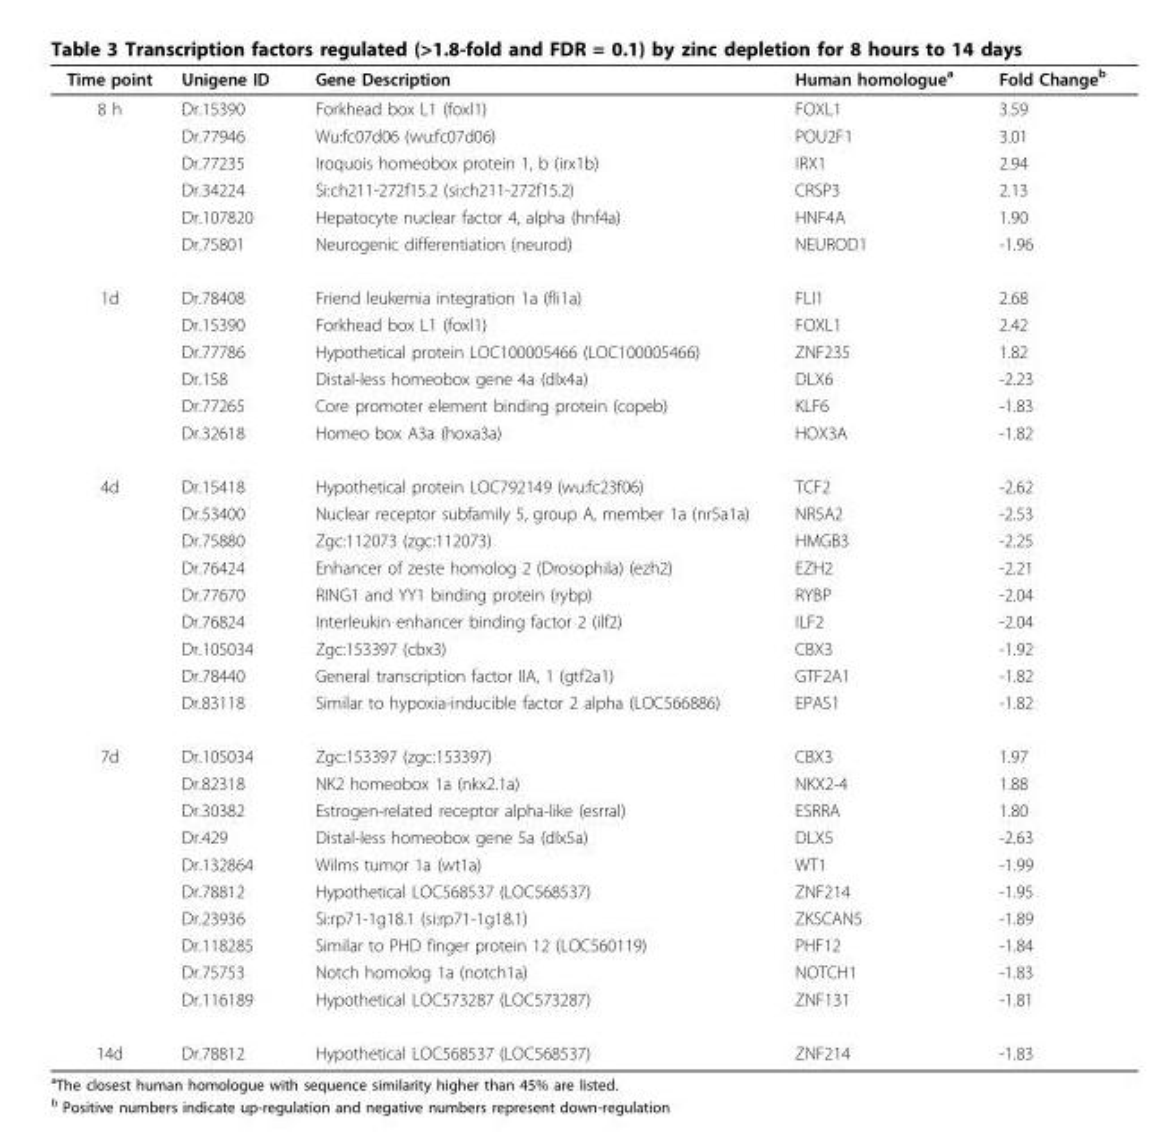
<table><thead><tr><td>Time point</td><td>Unigene ID</td><td>Gene Description</td><td>Human homologue<sup>a</sup></td><td>Fold Change<sup>b</sup></td></tr></thead><tbody><tr><td rowspan="6">8 h</td><td>Dr.15390</td><td>Forkhead box L1 (foxl1)</td><td>FOXL1</td><td>3.59</td></tr><tr><td>Dr.77946</td><td>Wu:fc07d06 (wu:fc07d06)</td><td>POU2F1</td><td>3.01</td></tr><tr><td>Dr.77235</td><td>Iroquois homeobox protein 1, b (irx1b)</td><td>IRX1</td><td>2.94</td></tr><tr><td>Dr.34224</td><td>Si:ch211-272f15.2 (si:ch211-272f15.2)</td><td>CRSP3</td><td>2.13</td></tr><tr><td>Dr.107820</td><td>Hepatocyte nuclear factor 4, alpha (hnf4a)</td><td>HNF4A</td><td>1.90</td></tr><tr><td>Dr.75801</td><td>Neurogenic differentiation (neurod)</td><td>NEUROD1</td><td>-1.96</td></tr><tr><td rowspan="6">1d</td><td>Dr.78408</td><td>Friend leukemia integration 1a (fli1a)</td><td>FLI1</td><td>2.68</td></tr><tr><td>Dr.15390</td><td>Forkhead box L1 (foxl1)</td><td>FOXL1</td><td>2.42</td></tr><tr><td>Dr.77786</td><td>Hypothetical protein LOC100005466 (LOC100005466)</td><td>ZNF235</td><td>1.82</td></tr><tr><td>Dr.158</td><td>Distal-less homeobox gene 4a (dlx4a)</td><td>DLX6</td><td>-2.23</td></tr><tr><td>Dr.77265</td><td>Core promoter element binding protein (copeb)</td><td>KLF6</td><td>-1.83</td></tr><tr><td>Dr.32618</td><td>Homeo box A3a (hoxa3a)</td><td>HOX3A</td><td>-1.82</td></tr><tr><td rowspan="9">4d</td><td>Dr.15418</td><td>Hypothetical protein LOC792149 (wu:fc23f06)</td><td>TCF2</td><td>-2.62</td></tr><tr><td>Dr.53400</td><td>Nuclear receptor subfamily 5, group A, member 1a (nr5a1a)</td><td>NR5A2</td><td>-2.53</td></tr><tr><td>Dr.75880</td><td>Zgc:112073 (zgc:112073)</td><td>HMGB3</td><td>-2.25</td></tr><tr><td>Dr.76424</td><td>Enhancer of zeste homolog 2 (Drosophila) (ezh2)</td><td>EZH2</td><td>-2.21</td></tr><tr><td>Dr.77670</td><td>RING1 and YY1 binding protein (rybp)</td><td>RYBP</td><td>-2.04</td></tr><tr><td>Dr.76824</td><td>Interleukin enhancer binding factor 2 (ilf2)</td><td>ILF2</td><td>-2.04</td></tr><tr><td>Dr.105034</td><td>Zgc:153397 (cbx3)</td><td>CBX3</td><td>-1.92</td></tr><tr><td>Dr.78440</td><td>General transcription factor IIA, 1 (gtf2a1)</td><td>GTF2A1</td><td>-1.82</td></tr><tr><td>Dr.83118</td><td>Similar to hypoxia-inducible factor 2 alpha (LOC566886)</td><td>EPAS1</td><td>-1.82</td></tr><tr><td rowspan="10">7d</td><td>Dr.105034</td><td>Zgc:153397 (zgc:153397)</td><td>CBX3</td><td>1.97</td></tr><tr><td>Dr.82318</td><td>NK2 homeobox 1a (nkx2.1a)</td><td>NKX2-4</td><td>1.88</td></tr><tr><td>Dr.30382</td><td>Estrogen-related receptor alpha-like (esrral)</td><td>ESRRA</td><td>1.80</td></tr><tr><td>Dr.429</td><td>Distal-less homeobox gene 5a (dlx5a)</td><td>DLX5</td><td>-2.63</td></tr><tr><td>Dr.132864</td><td>Wilms tumor 1a (wt1a)</td><td>WT1</td><td>-1.99</td></tr><tr><td>Dr.78812</td><td>Hypothetical LOC568537 (LOC568537)</td><td>ZNF214</td><td>-1.95</td></tr><tr><td>Dr.23936</td><td>Si:rp71-1g18.1 (si:rp71-1g18.1)</td><td>ZKSCAN5</td><td>-1.89</td></tr><tr><td>Dr.118285</td><td>Similar to PHD finger protein 12 (LOC560119)</td><td>PHF12</td><td>-1.84</td></tr><tr><td>Dr.75753</td><td>Notch homolog 1a (notch1a)</td><td>NOTCH1</td><td>-1.83</td></tr><tr><td>Dr.116189</td><td>Hypothetical LOC573287 (LOC573287)</td><td>ZNF131</td><td>-1.81</td></tr><tr><td>14d</td><td>Dr.78812</td><td>Hypothetical LOC568537 (LOC568537)</td><td>ZNF214</td><td>-1.83</td></tr></tbody></table>